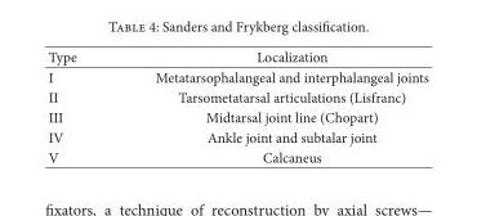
<table><thead><tr><td>Type</td><td>Localization</td></tr></thead><tbody><tr><td>I</td><td>Metatarsophalangeal and interphalangeal joints</td></tr><tr><td>II</td><td>Tarsometatarsal articulations (Lisfranc)</td></tr><tr><td>III</td><td>Midtarsal joint line (Chopart)</td></tr><tr><td>IV</td><td>Ankle joint and subtalar joint</td></tr><tr><td>V</td><td>Calcaneus</td></tr></tbody></table>